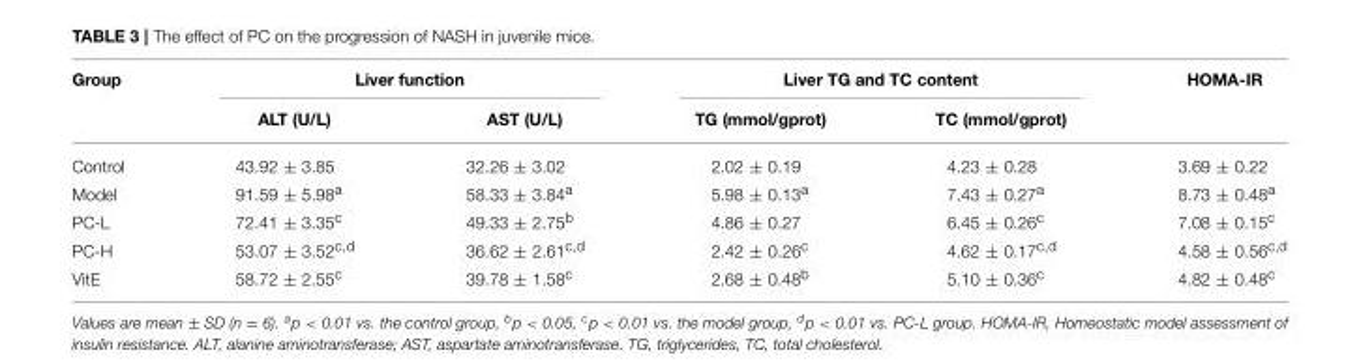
<table><thead><tr><td rowspan="2">Group</td><td colspan="2">Liver function</td><td colspan="2">Liver TG and TC content</td><td rowspan="2">HOMA-IR</td></tr><tr><td>ALT (U/L)</td><td>AST (U/L)</td><td>TG (mmol/gprot)</td><td>TC (mmol/gprot)</td></tr></thead><tbody><tr><td>Control</td><td>43.92 ± 3.85</td><td>32.26 ± 3.02</td><td>2.02 ± 0.19</td><td>4.23 ± 0.28</td><td>3.69 ± 0.22</td></tr><tr><td>Model</td><td>91.59 ± 5.98<sup>a</sup></td><td>58.33 ± 3.84<sup>a</sup></td><td>5.98 ± 0.13<sup>a</sup></td><td>7.43 ± 0.27<sup>a</sup></td><td>8.73 ± 0.48<sup>a</sup></td></tr><tr><td>PC-L</td><td>72.41 ± 3.35<sup>c</sup></td><td>49.33 ± 2.75<sup>b</sup></td><td>4.86 ± 0.27</td><td>6.45 ± 0.26<sup>c</sup></td><td>7.08 ± 0.15<sup>c</sup></td></tr><tr><td>PC-H</td><td>53.07 ± 3.52<sup>c,d</sup></td><td>36.62 ± 2.61<sup>c,d</sup></td><td>2.42 ± 0.26<sup>c</sup></td><td>4.62 ± 0.17<sup>c,d</sup></td><td>4.58 ± 0.56<sup>c,d</sup></td></tr><tr><td>VitE</td><td>58.72 ± 2.55<sup>c</sup></td><td>39.78 ± 1.58<sup>c</sup></td><td>2.68 ± 0.48<sup>b</sup></td><td>5.10 ± 0.36<sup>c</sup></td><td>4.82 ± 0.48<sup>c</sup></td></tr></tbody></table>